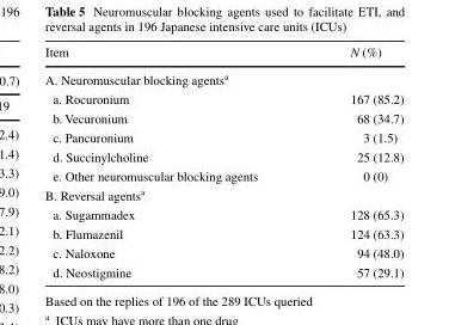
<table><thead><tr><td>Item</td><td>N (%)</td></tr></thead><tbody><tr><td colspan="2">A. Neuromuscular blocking agents<sup>a</sup></td></tr><tr><td>a. Rocuronium</td><td>167 (85.2)</td></tr><tr><td>b. Vecuronium</td><td>68 (34.7)</td></tr><tr><td>c. Pancuronium</td><td>3 (1.5)</td></tr><tr><td>d. Succinylcholine</td><td>25 (12.8)</td></tr><tr><td>e. Other neuromuscular blocking agents</td><td>0 (0)</td></tr><tr><td colspan="2">B. Reversal agents<sup>a</sup></td></tr><tr><td>a. Sugammadex</td><td>128 (65.3)</td></tr><tr><td>b. Flumazenil</td><td>124 (63.3)</td></tr><tr><td>c. Naloxone</td><td>94 (48.0)</td></tr><tr><td>d. Neostigmine</td><td>57 (29.1)</td></tr></tbody></table>